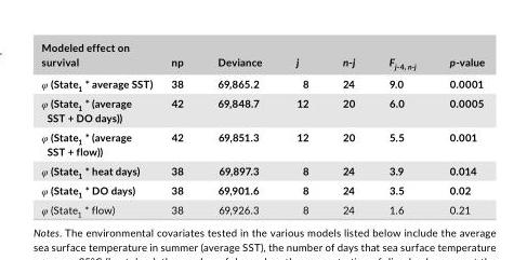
<table><thead><tr><td>Modeled effect on survival</td><td>np</td><td>Deviance</td><td>j</td><td>n- j</td><td>F<sub>j-4, n-j</sub></td><td>p- value</td></tr></thead><tbody><tr><td>φ (State<sub>1</sub> * average SST)</td><td>38</td><td>69,865.2</td><td>8</td><td>24</td><td>9.0</td><td>0.0001</td></tr><tr><td>φ (State<sub>1</sub> * (average SST + DO days))</td><td>42</td><td>69,848.7</td><td>12</td><td>20</td><td>6.0</td><td>0.0005</td></tr><tr><td>φ (State<sub>1</sub> * (average SST + flow))</td><td>42</td><td>69,851.3</td><td>12</td><td>20</td><td>5.5</td><td>0.001</td></tr><tr><td>φ (State<sub>1</sub> * heat days)</td><td>38</td><td>69,897.3</td><td>8</td><td>24</td><td>3.9</td><td>0.014</td></tr><tr><td>φ (State<sub>1</sub> * DO days)</td><td>38</td><td>69,901.6</td><td>8</td><td>24</td><td>3.5</td><td>0.02</td></tr><tr><td>φ (State<sub>1</sub> * flow)</td><td>38</td><td>69,926.3</td><td>8</td><td>24</td><td>1.6</td><td>0.21</td></tr></tbody></table>